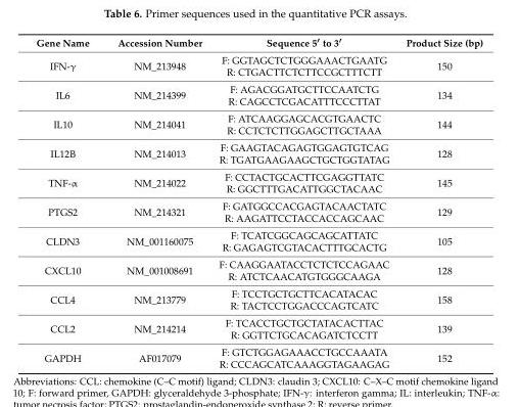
<table><thead><tr><td>Gene Name</td><td>Accession Number</td><td>Sequence 5′ to 3′</td><td>Product Size (bp)</td></tr></thead><tbody><tr><td>IFN-γ</td><td>NM_213948</td><td>F: GGTAGCTCTGGGAAACTGAATG R: CTGACTTCTCTTCCGCTTTCTT</td><td>150</td></tr><tr><td>IL6</td><td>NM_214399</td><td>F: AGACGGATGCTTCCAATCTG R: CAGCCTCGACATTTCCCTTAT</td><td>134</td></tr><tr><td>IL10</td><td>NM_214041</td><td>F: ATCAAGGAGCACGTGAACTC R: CCTCTCTTGGAGCTTGCTAAA</td><td>144</td></tr><tr><td>IL12B</td><td>NM_214013</td><td>F: GAAGTACAGAGTGGAGTGTCAG R: TGATGAAGAAGCTGCTGGTATAG</td><td>128</td></tr><tr><td>TNF-α</td><td>NM_214022</td><td>F: CCTACTGCACTTCGAGGTTATC R: GGCTTTGACATTGGCTACAAC</td><td>145</td></tr><tr><td>PTGS2</td><td>NM_214321</td><td>F: GATGGCCACGAGTACAACTATC R: AAGATTCCTACCACCAGCAAC</td><td>129</td></tr><tr><td>CLDN3</td><td>NM_001160075</td><td>F: TCATCGGCAGCAGCATTATC R: GAGAGTCGTACACTTTGCACTG</td><td>105</td></tr><tr><td>CXCL10</td><td>NM_001008691</td><td>F: CAAGGAATACCTCTCTCCAGAAC R: ATCTCAACATGTGGGCAAGA</td><td>128</td></tr><tr><td>CCL4</td><td>NM_213779</td><td>F: TCCTGCTGCTTCACATACAC R: TACTCCTGGACCCAGTCATC</td><td>158</td></tr><tr><td>CCL2</td><td>NM_214214</td><td>F: TCACCTGCTGCTATACACTTAC R: GGTTCTGCACAGATCTCCTT</td><td>139</td></tr><tr><td>GAPDH</td><td>AF017079</td><td>F: GTCTGGAGAAACCTGCCAAATA R: CCCAGCATCAAAGGTAGAAGAG</td><td>152</td></tr></tbody></table>